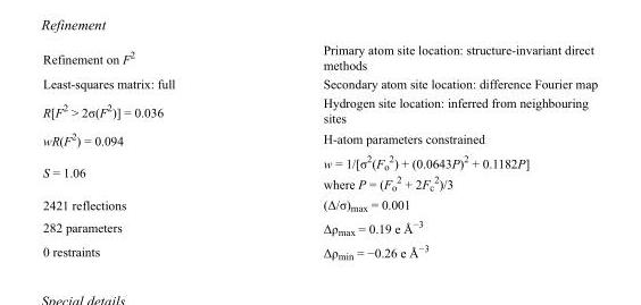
<table><tbody><tr><td>Refinement on F<sup>2</sup></td><td>Primary atom site location: structure-invariant direct methods</td></tr><tr><td>Least-squares matrix: full</td><td>Secondary atom site location: difference Fourier map</td></tr><tr><td>R[F<sup>2</sup> &gt; 2σ(F<sup>2</sup>)] = 0.036</td><td>Hydrogen site location: inferred from neighbouring sites</td></tr><tr><td>wR(F<sup>2</sup>) = 0.094</td><td>H-atom parameters constrained</td></tr><tr><td>S = 1.06</td><td>w = 1/[σ<sup>2</sup>(F<sub>o</sub> <sup>2</sup>) + (0.0643P)<sup>2</sup> + 0.1182P] where P = (F<sub>o</sub> <sup>2</sup> + 2F<sub>c</sub> <sup>2</sup>)/3</td></tr><tr><td>2421 reflections</td><td>(Δ/σ)<sub>max</sub> = 0.001</td></tr><tr><td>282 parameters</td><td>Δρ<sub>max</sub> = 0.19 e Å<sup>−3</sup></td></tr><tr><td>0 restraints</td><td>Δρ<sub>min</sub> = −0.26 e Å<sup>−3</sup></td></tr></tbody></table>